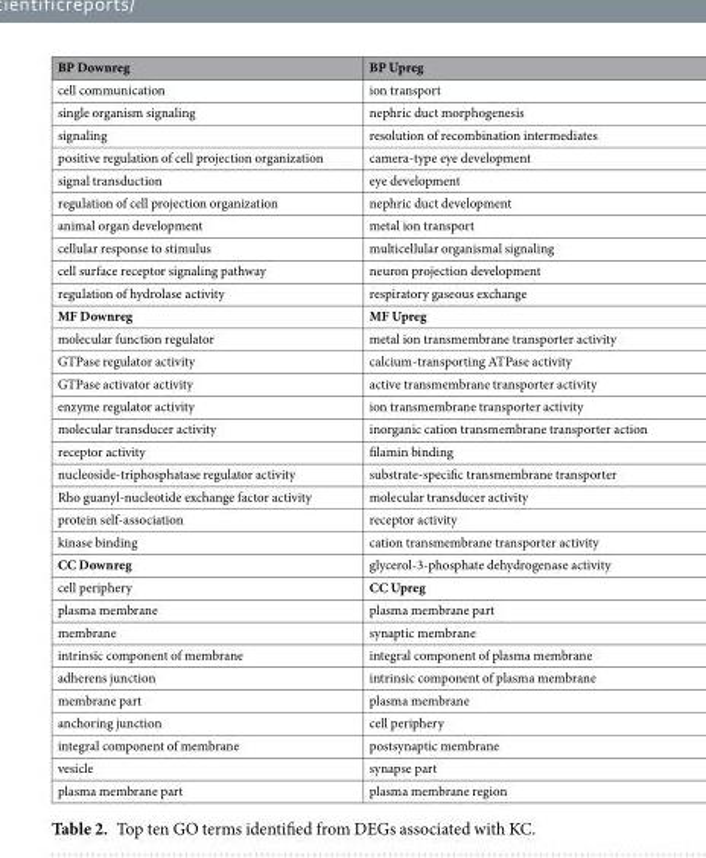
<table><thead><tr><td>BP Downreg</td><td>BP Upreg</td></tr></thead><tbody><tr><td>cell communication</td><td>ion transport</td></tr><tr><td>single organism signaling</td><td>nephric duct morphogenesis</td></tr><tr><td>signaling</td><td>resolution of recombination intermediates</td></tr><tr><td>positive regulation of cell projection organization</td><td>camera-type eye development</td></tr><tr><td>signal transduction</td><td>eye development</td></tr><tr><td>regulation of cell projection organization</td><td>nephric duct development</td></tr><tr><td>animal organ development</td><td>metal ion transport</td></tr><tr><td>cellular response to stimulus</td><td>multicellular organismal signaling</td></tr><tr><td>cell surface receptor signaling pathway</td><td>neuron projection development</td></tr><tr><td>regulation of hydrolase activity</td><td>respiratory gaseous exchange</td></tr><tr><td>MF Downreg</td><td>MF Upreg</td></tr><tr><td>molecular function regulator</td><td>metal ion transmembrane transporter activity</td></tr><tr><td>GTPase regulator activity</td><td>calcium-transporting ATPase activity</td></tr><tr><td>GTPase activator activity</td><td>active transmembrane transporter activity</td></tr><tr><td>enzyme regulator activity</td><td>ion transmembrane transporter activity</td></tr><tr><td>molecular transducer activity</td><td>inorganic cation transmembrane transporter action</td></tr><tr><td>receptor activity</td><td>filamin binding</td></tr><tr><td>nucleoside-triphosphatase regulator activity</td><td>substrate-specific transmembrane transporter</td></tr><tr><td>Rho guanyl-nucleotide exchange factor activity</td><td>molecular transducer activity</td></tr><tr><td>protein self-association</td><td>receptor activity</td></tr><tr><td>kinase binding</td><td>cation transmembrane transporter activity</td></tr><tr><td>CC Downreg</td><td>glycerol-3-phosphate dehydrogenase activity</td></tr><tr><td>cell periphery</td><td>CC Upreg</td></tr><tr><td>plasma membrane</td><td>plasma membrane part</td></tr><tr><td>membrane</td><td>synaptic membrane</td></tr><tr><td>intrinsic component of membrane</td><td>integral component of plasma membrane</td></tr><tr><td>adherens junction</td><td>intrinsic component of plasma membrane</td></tr><tr><td>membrane part</td><td>plasma membrane</td></tr><tr><td>anchoring junction</td><td>cell periphery</td></tr><tr><td>integral component of membrane</td><td>postsynaptic membrane</td></tr><tr><td>vesicle</td><td>synapse part</td></tr><tr><td>plasma membrane part</td><td>plasma membrane region</td></tr></tbody></table>